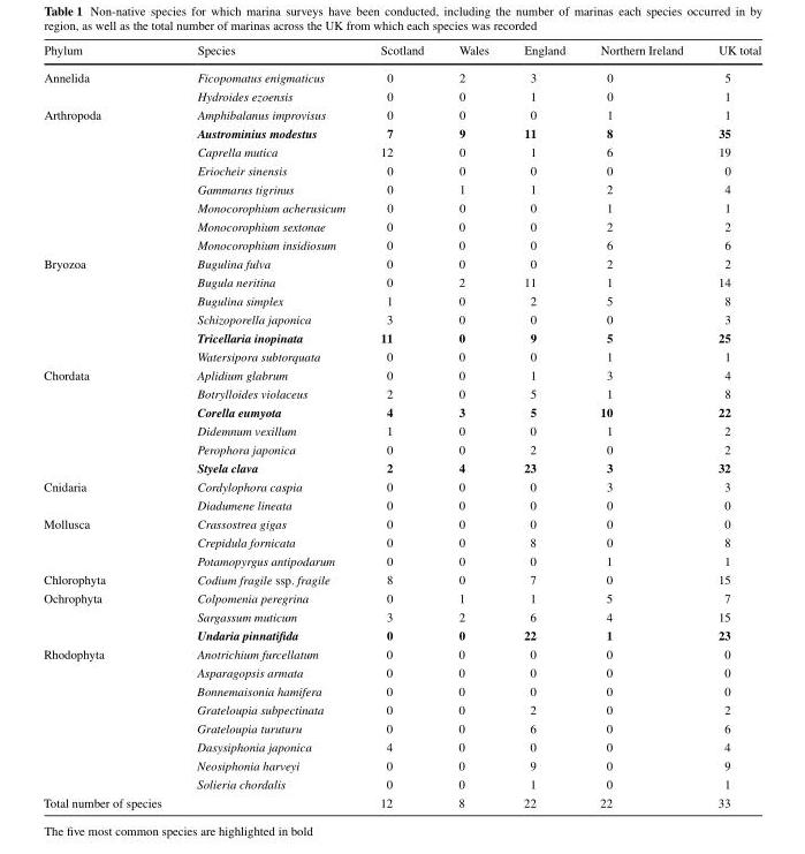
<table><thead><tr><td>Phylum</td><td>Species</td><td>Scotland</td><td>Wales</td><td>England</td><td>Northern Ireland</td><td>UK total</td></tr></thead><tbody><tr><td rowspan="2">Annelida</td><td>Ficopomatus enigmaticus</td><td>0</td><td>2</td><td>3</td><td>0</td><td>5</td></tr><tr><td>Hydroides ezoensis</td><td>0</td><td>0</td><td>1</td><td>0</td><td>1</td></tr><tr><td rowspan="8">Arthropoda</td><td>Amphibalanus improvisus</td><td>0</td><td>0</td><td>0</td><td>1</td><td>1</td></tr><tr><td>Austrominius modestus</td><td>7</td><td>9</td><td>11</td><td>8</td><td>35</td></tr><tr><td>Caprella mutica</td><td>12</td><td>0</td><td>1</td><td>6</td><td>19</td></tr><tr><td>Eriocheir sinensis</td><td>0</td><td>0</td><td>0</td><td>0</td><td>0</td></tr><tr><td>Gammarus tigrinus</td><td>0</td><td>1</td><td>1</td><td>2</td><td>4</td></tr><tr><td>Monocorophium acherusicum</td><td>0</td><td>0</td><td>0</td><td>1</td><td>1</td></tr><tr><td>Monocorophium sextonae</td><td>0</td><td>0</td><td>0</td><td>2</td><td>2</td></tr><tr><td>Monocorophium insidiosum</td><td>0</td><td>0</td><td>0</td><td>6</td><td>6</td></tr><tr><td rowspan="6">Bryozoa</td><td>Bugulina fulva</td><td>0</td><td>0</td><td>0</td><td>2</td><td>2</td></tr><tr><td>Bugula neritina</td><td>0</td><td>2</td><td>11</td><td>1</td><td>14</td></tr><tr><td>Bugulina simplex</td><td>1</td><td>0</td><td>2</td><td>5</td><td>8</td></tr><tr><td>Schizoporella japonica</td><td>3</td><td>0</td><td>0</td><td>0</td><td>3</td></tr><tr><td>Tricellaria inopinata</td><td>11</td><td>0</td><td>9</td><td>5</td><td>25</td></tr><tr><td>Watersipora subtorquata</td><td>0</td><td>0</td><td>0</td><td>1</td><td>1</td></tr><tr><td rowspan="6">Chordata</td><td>Aplidium glabrum</td><td>0</td><td>0</td><td>1</td><td>3</td><td>4</td></tr><tr><td>Botrylloides violaceus</td><td>2</td><td>0</td><td>5</td><td>1</td><td>8</td></tr><tr><td>Corella eumyota</td><td>4</td><td>3</td><td>5</td><td>10</td><td>22</td></tr><tr><td>Didemnum vexillum</td><td>1</td><td>0</td><td>0</td><td>1</td><td>2</td></tr><tr><td>Perophora japonica</td><td>0</td><td>0</td><td>2</td><td>0</td><td>2</td></tr><tr><td>Styela clava</td><td>2</td><td>4</td><td>23</td><td>3</td><td>32</td></tr><tr><td rowspan="2">Cnidaria</td><td>Cordylophora caspia</td><td>0</td><td>0</td><td>0</td><td>3</td><td>3</td></tr><tr><td>Diadumene lineata</td><td>0</td><td>0</td><td>0</td><td>0</td><td>0</td></tr><tr><td rowspan="3">Mollusca</td><td>Crassostrea gigas</td><td>0</td><td>0</td><td>0</td><td>0</td><td>0</td></tr><tr><td>Crepidula fornicata</td><td>0</td><td>0</td><td>8</td><td>0</td><td>8</td></tr><tr><td>Potamopyrgus antipodarum</td><td>0</td><td>0</td><td>0</td><td>1</td><td>1</td></tr><tr><td>Chlorophyta</td><td>Codium fragile ssp. fragile</td><td>8</td><td>0</td><td>7</td><td>0</td><td>15</td></tr><tr><td rowspan="3">Ochrophyta</td><td>Colpomenia peregrina</td><td>0</td><td>1</td><td>1</td><td>5</td><td>7</td></tr><tr><td>Sargassum muticum</td><td>3</td><td>2</td><td>6</td><td>4</td><td>15</td></tr><tr><td>Undaria pinnatifida</td><td>0</td><td>0</td><td>22</td><td>1</td><td>23</td></tr><tr><td rowspan="8">Rhodophyta</td><td>Anotrichium furcellatum</td><td>0</td><td>0</td><td>0</td><td>0</td><td>0</td></tr><tr><td>Asparagopsis armata</td><td>0</td><td>0</td><td>0</td><td>0</td><td>0</td></tr><tr><td>Bonnemaisonia hamifera</td><td>0</td><td>0</td><td>0</td><td>0</td><td>0</td></tr><tr><td>Grateloupia subpectinata</td><td>0</td><td>0</td><td>2</td><td>0</td><td>2</td></tr><tr><td>Grateloupia turuturu</td><td>0</td><td>0</td><td>6</td><td>0</td><td>6</td></tr><tr><td>Dasysiphonia japonica</td><td>4</td><td>0</td><td>0</td><td>0</td><td>4</td></tr><tr><td>Neosiphonia harveyi</td><td>0</td><td>0</td><td>9</td><td>0</td><td>9</td></tr><tr><td>Solieria chordalis</td><td>0</td><td>0</td><td>1</td><td>0</td><td>1</td></tr><tr><td>Total number of species</td><td></td><td>12</td><td>8</td><td>22</td><td>22</td><td>33</td></tr></tbody></table>